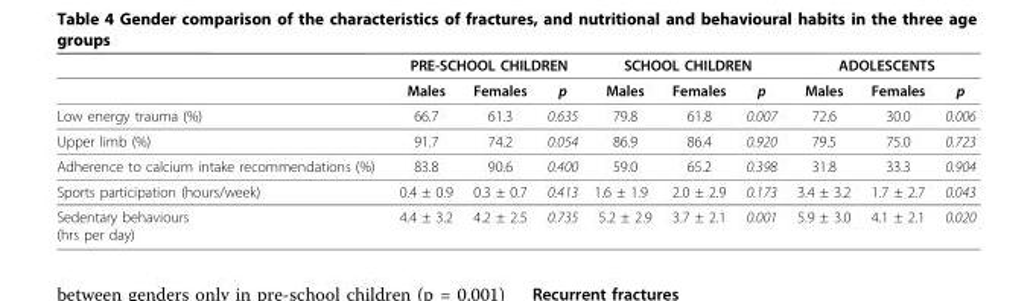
<table><thead><tr><td rowspan="2"></td><td colspan="3">PRE-SCHOOL CHILDREN</td><td colspan="3">SCHOOL CHILDREN</td><td colspan="3">ADOLESCENTS</td></tr><tr><td>Males</td><td>Females</td><td>p</td><td>Males</td><td>Females</td><td>p</td><td>Males</td><td>Females</td><td>p</td></tr></thead><tbody><tr><td>Low energy trauma (%)</td><td>66.7</td><td>61.3</td><td>0.635</td><td>79.8</td><td>61.8</td><td>0.007</td><td>72.6</td><td>30.0</td><td>0.006</td></tr><tr><td>Upper limb (%)</td><td>91.7</td><td>74.2</td><td>0.054</td><td>86.9</td><td>86.4</td><td>0.920</td><td>79.5</td><td>75.0</td><td>0.723</td></tr><tr><td>Adherence to calcium intake recommendations (%)</td><td>83.8</td><td>90.6</td><td>0.400</td><td>59.0</td><td>65.2</td><td>0.398</td><td>31.8</td><td>33.3</td><td>0.904</td></tr><tr><td>Sports participation (hours/week)</td><td>0.4 ± 0.9</td><td>0.3 ± 0.7</td><td>0.413</td><td>1.6 ± 1.9</td><td>2.0 ± 2.9</td><td>0.173</td><td>3.4 ± 3.2</td><td>1.7 ± 2.7</td><td>0.043</td></tr><tr><td>Sedentary behaviours (hrs per day)</td><td>4.4 ± 3.2</td><td>4.2 ± 2.5</td><td>0.735</td><td>5.2 ± 2.9</td><td>3.7 ± 2.1</td><td>0.001</td><td>5.9 ± 3.0</td><td>4.1 ± 2.1</td><td>0.020</td></tr></tbody></table>